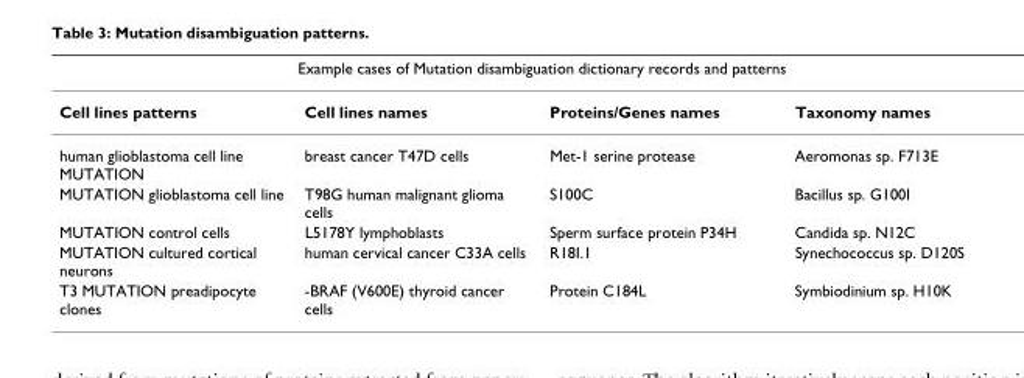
<table><thead><tr><td colspan="4">Example cases of Mutation disambiguation dictionary records and patterns</td></tr><tr><td>Cell lines patterns</td><td>Cell lines names</td><td>Proteins/Genes names</td><td>Taxonomy names</td></tr></thead><tbody><tr><td>human glioblastoma cell line MUTATION</td><td>breast cancer T47D cells</td><td>Met-1 serine protease</td><td>Aeromonas sp. F713E</td></tr><tr><td>MUTATION glioblastoma cell line</td><td>T98G human malignant glioma cells</td><td>S100C</td><td>Bacillus sp. G100I</td></tr><tr><td>MUTATION control cells</td><td>L5178Y lymphoblasts</td><td>Sperm surface protein P34H</td><td>Candida sp. N12C</td></tr><tr><td>MUTATION cultured cortical neurons</td><td>human cervical cancer C33A cells</td><td>R18I.1</td><td>Synechococcus sp. D120S</td></tr><tr><td>T3 MUTATION preadipocyte clones</td><td>-BRAF (V600E) thyroid cancer cells</td><td>Protein C184L</td><td>Symbiodinium sp. H10K</td></tr></tbody></table>